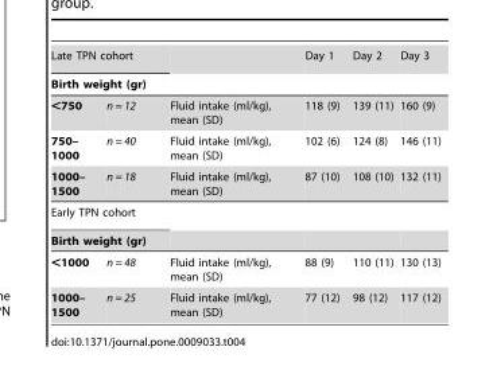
<table><tbody><tr><td colspan="2">Late TPN cohort</td><td></td><td>Day 1</td><td>Day 2</td><td>Day 3</td></tr><tr><td colspan="6">Birth weight (gr)</td></tr><tr><td>&lt;750</td><td>n = 12</td><td>Fluid intake (ml/kg), mean (SD)</td><td>118 (9)</td><td>139 (11)</td><td>160 (9)</td></tr><tr><td>750– 1000</td><td>n = 40</td><td>Fluid intake (ml/kg), mean (SD)</td><td>102 (6)</td><td>124 (8)</td><td>146 (11)</td></tr><tr><td>1000– 1500</td><td>n = 18</td><td>Fluid intake (ml/kg), mean (SD)</td><td>87 (10)</td><td>108 (10)</td><td>132 (11)</td></tr><tr><td colspan="6">Early TPN cohort</td></tr><tr><td colspan="6">Birth weight (gr)</td></tr><tr><td>&lt;1000</td><td>n = 48</td><td>Fluid intake (ml/kg), mean (SD)</td><td>88 (9)</td><td>110 (11)</td><td>130 (13)</td></tr><tr><td>1000– 1500</td><td>n = 25</td><td>Fluid intake (ml/kg), mean (SD)</td><td>77 (12)</td><td>98 (12)</td><td>117 (12)</td></tr></tbody></table>